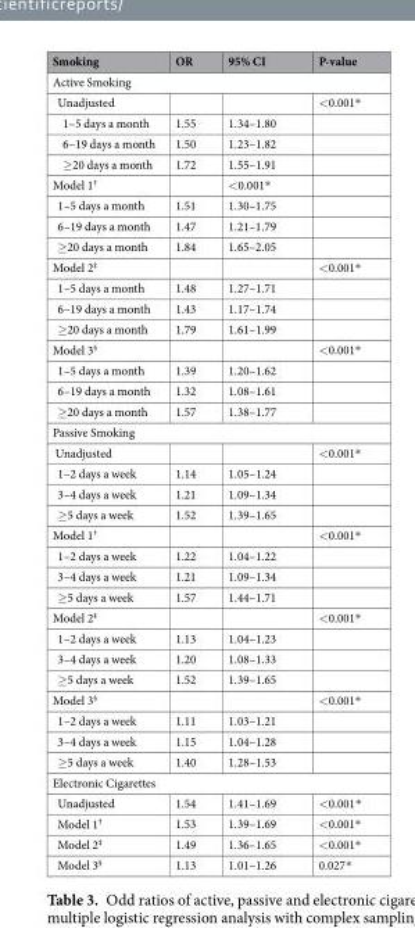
<table><thead><tr><td>Smoking</td><td>OR</td><td>95% CI</td><td>P-value</td></tr></thead><tbody><tr><td colspan="4">Active Smoking</td></tr><tr><td>Unadjusted</td><td></td><td></td><td>&lt;0.001*</td></tr><tr><td>1–5 days a month</td><td>1.55</td><td>1.34–1.80</td><td></td></tr><tr><td>6–19 days a month</td><td>1.50</td><td>1.23–1.82</td><td></td></tr><tr><td>≥20 days a month</td><td>1.72</td><td>1.55–1.91</td><td></td></tr><tr><td>Model 1<sup>†</sup></td><td></td><td>&lt;0.001*</td><td></td></tr><tr><td>1–5 days a month</td><td>1.51</td><td>1.30–1.75</td><td></td></tr><tr><td>6–19 days a month</td><td>1.47</td><td>1.21–1.79</td><td></td></tr><tr><td>≥20 days a month</td><td>1.84</td><td>1.65–2.05</td><td></td></tr><tr><td>Model 2<sup>‡</sup></td><td></td><td></td><td>&lt;0.001*</td></tr><tr><td>1–5 days a month</td><td>1.48</td><td>1.27–1.71</td><td></td></tr><tr><td>6–19 days a month</td><td>1.43</td><td>1.17–1.74</td><td></td></tr><tr><td>≥20 days a month</td><td>1.79</td><td>1.61–1.99</td><td></td></tr><tr><td>Model 3<sup>§</sup></td><td></td><td></td><td>&lt;0.001*</td></tr><tr><td>1–5 days a month</td><td>1.39</td><td>1.20–1.62</td><td></td></tr><tr><td>6–19 days a month</td><td>1.32</td><td>1.08–1.61</td><td></td></tr><tr><td>≥20 days a month</td><td>1.57</td><td>1.38–1.77</td><td></td></tr><tr><td colspan="4">Passive Smoking</td></tr><tr><td>Unadjusted</td><td></td><td></td><td>&lt;0.001*</td></tr><tr><td>1–2 days a week</td><td>1.14</td><td>1.05–1.24</td><td></td></tr><tr><td>3–4 days a week</td><td>1.21</td><td>1.09–1.34</td><td></td></tr><tr><td>≥5 days a week</td><td>1.52</td><td>1.39–1.65</td><td></td></tr><tr><td>Model 1<sup>†</sup></td><td></td><td></td><td>&lt;0.001*</td></tr><tr><td>1–2 days a week</td><td>1.22</td><td>1.04–1.22</td><td></td></tr><tr><td>3–4 days a week</td><td>1.21</td><td>1.09–1.34</td><td></td></tr><tr><td>≥5 days a week</td><td>1.57</td><td>1.44–1.71</td><td></td></tr><tr><td>Model 2<sup>‡</sup></td><td></td><td></td><td>&lt;0.001*</td></tr><tr><td>1–2 days a week</td><td>1.13</td><td>1.04–1.23</td><td></td></tr><tr><td>3–4 days a week</td><td>1.20</td><td>1.08–1.33</td><td></td></tr><tr><td>≥5 days a week</td><td>1.52</td><td>1.39–1.65</td><td></td></tr><tr><td>Model 3<sup>§</sup></td><td></td><td></td><td>&lt;0.001*</td></tr><tr><td>1–2 days a week</td><td>1.11</td><td>1.03–1.21</td><td></td></tr><tr><td>3–4 days a week</td><td>1.15</td><td>1.04–1.28</td><td></td></tr><tr><td>≥5 days a week</td><td>1.40</td><td>1.28–1.53</td><td></td></tr><tr><td colspan="4">Electronic Cigarettes</td></tr><tr><td>Unadjusted</td><td>1.54</td><td>1.41–1.69</td><td>&lt;0.001*</td></tr><tr><td>Model 1<sup>†</sup></td><td>1.53</td><td>1.39–1.69</td><td>&lt;0.001*</td></tr><tr><td>Model 2<sup>‡</sup></td><td>1.49</td><td>1.36–1.65</td><td>&lt;0.001*</td></tr><tr><td>Model 3<sup>§</sup></td><td>1.13</td><td>1.01–1.26</td><td>0.027*</td></tr></tbody></table>